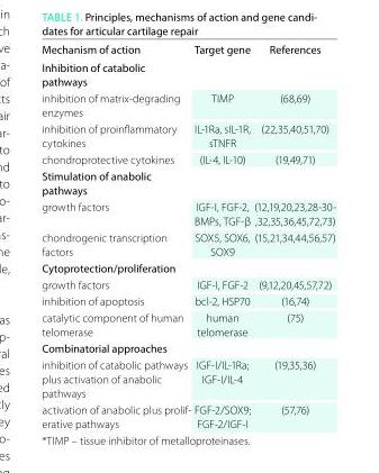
<table><thead><tr><td>Mechanism of action</td><td>Target gene</td><td>References</td></tr></thead><tbody><tr><td colspan="3">Inhibition of catabolic pathways</td></tr><tr><td>inhibition of matrix-degrading enzymes</td><td>TIMP</td><td>(68,69)</td></tr><tr><td>inhibition of proinflammatory cytokines</td><td>IL-1Ra, sIL-1R, sTNFR</td><td>(22,35,40,51,70)</td></tr><tr><td>chondroprotective cytokines</td><td>(IL-4, IL-10)</td><td>(19,49,71)</td></tr><tr><td colspan="3">Stimulation of anabolic pathways</td></tr><tr><td>growth factors</td><td>IGF-I, FGF-2, BMPs, TGF-β</td><td>(12,19,20,23,28-30- ,32,35,36,45,72,73)</td></tr><tr><td>chondrogenic transcription factors</td><td>SOX5, SOX6, SOX9</td><td>(15,21,34,44,56,57)</td></tr><tr><td colspan="3">Cytoprotection/proliferation</td></tr><tr><td>growth factors</td><td>IGF-I, FGF-2</td><td>(9,12,20,45,57,72)</td></tr><tr><td>inhibition of apoptosis</td><td>bcl-2, HSP70</td><td>(16,74)</td></tr><tr><td>catalytic component of human telomerase</td><td>human telomerase</td><td>(75)</td></tr><tr><td colspan="3">Combinatorial approaches</td></tr><tr><td>inhibition of catabolic pathways plus activation of anabolic pathways</td><td>IGF-I/IL-1Ra; IGF-I/IL-4</td><td>(19,35,36)</td></tr><tr><td>activation of anabolic plus prolif- erative pathways</td><td>FGF-2/SOX9; FGF-2/IGF-I</td><td>(57,76)</td></tr></tbody></table>